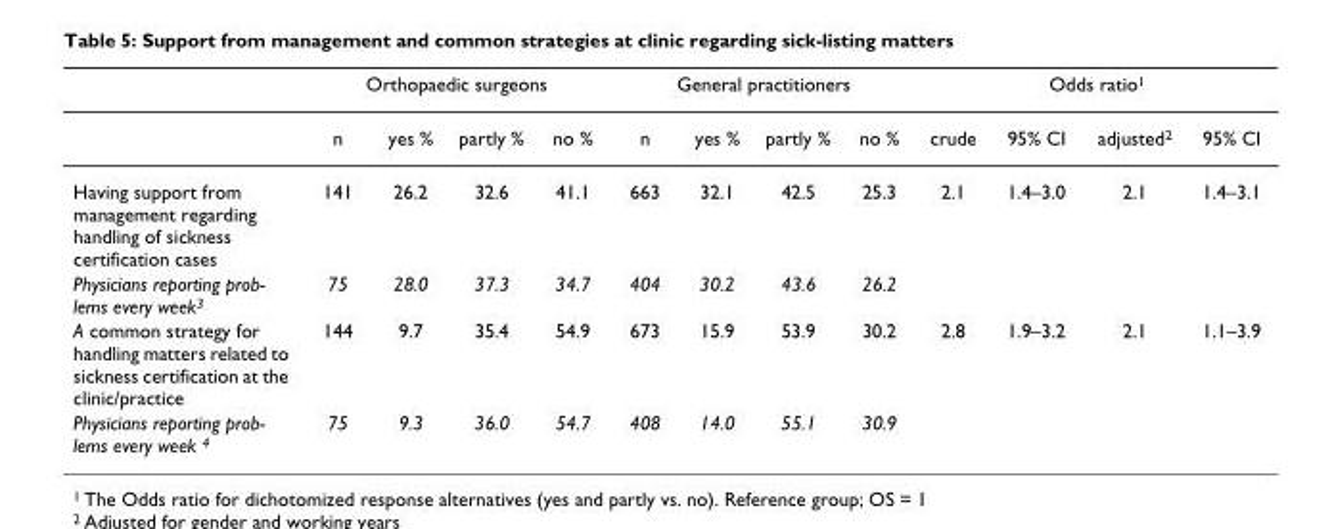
<table><thead><tr><td rowspan="2"></td><td colspan="4">Orthopaedic surgeons</td><td colspan="4">General practitioners</td><td colspan="4">Odds ratio<sup>1</sup></td></tr><tr><td>n</td><td>yes %</td><td>partly %</td><td>no %</td><td>n</td><td>yes %</td><td>partly %</td><td>no %</td><td>crude</td><td>95% CI</td><td>adjusted<sup>2</sup></td><td>95% CI</td></tr></thead><tbody><tr><td>Having support from management regarding handling of sickness certification cases</td><td>141</td><td>26.2</td><td>32.6</td><td>41.1</td><td>663</td><td>32.1</td><td>42.5</td><td>25.3</td><td>2.1</td><td>1.4–3.0</td><td>2.1</td><td>1.4–3.1</td></tr><tr><td>Physicians reporting prob- lems every week3</td><td>75</td><td>28.0</td><td>37.3</td><td>34.7</td><td>404</td><td>30.2</td><td>43.6</td><td>26.2</td><td></td><td></td><td></td><td></td></tr><tr><td>A common strategy for handling matters related to sickness certification at the clinic/practice</td><td>144</td><td>9.7</td><td>35.4</td><td>54.9</td><td>673</td><td>15.9</td><td>53.9</td><td>30.2</td><td>2.8</td><td>1.9–3.2</td><td>2.1</td><td>1.1–3.9</td></tr><tr><td>Physicians reporting prob- lems every week 4</td><td>75</td><td>9.3</td><td>36.0</td><td>54.7</td><td>408</td><td>14.0</td><td>55.1</td><td>30.9</td><td></td><td></td><td></td><td></td></tr></tbody></table>